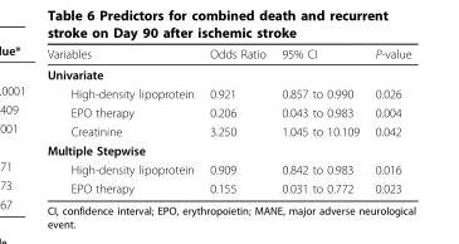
<table><thead><tr><td>Variables</td><td>Odds Ratio</td><td>95% CI</td><td>P-value</td></tr></thead><tbody><tr><td colspan="4">Univariate</td></tr><tr><td>High-density lipoprotein</td><td>0.921</td><td>0.857 to 0.990</td><td>0.026</td></tr><tr><td>EPO therapy</td><td>0.206</td><td>0.043 to 0.983</td><td>0.004</td></tr><tr><td>Creatinine</td><td>3.250</td><td>1.045 to 10.109</td><td>0.042</td></tr><tr><td colspan="4">Multiple Stepwise</td></tr><tr><td>High-density lipoprotein</td><td>0.909</td><td>0.842 to 0.983</td><td>0.016</td></tr><tr><td>EPO therapy</td><td>0.155</td><td>0.031 to 0.772</td><td>0.023</td></tr></tbody></table>